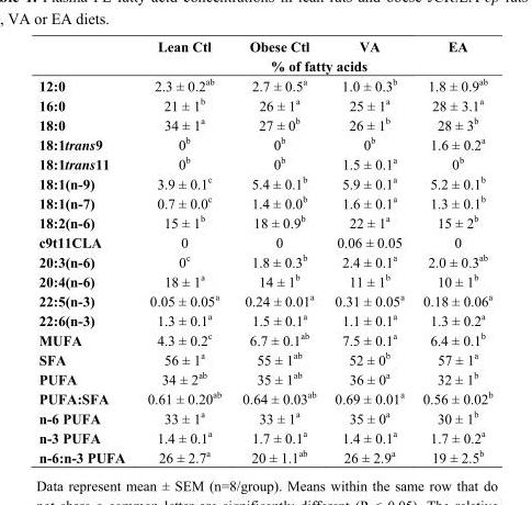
<table><thead><tr><td rowspan="2"></td><td>Lean Ctl</td><td>Obese Ctl</td><td>VA</td><td>EA</td></tr><tr><td colspan="4">% of fatty acids</td></tr></thead><tbody><tr><td>12:0</td><td>2.3 ± 0.2<sup>ab</sup></td><td>2.7 ± 0.5<sup>a</sup></td><td>1.0 ± 0.3<sup>b</sup></td><td>1.8 ± 0.9<sup>ab</sup></td></tr><tr><td>16:0</td><td>21 ± 1<sup>b</sup></td><td>26 ± 1<sup>a</sup></td><td>25 ± 1<sup>a</sup></td><td>28 ± 3.1<sup>a</sup></td></tr><tr><td>18:0</td><td>34 ± 1<sup>a</sup></td><td>27 ± 0<sup>b</sup></td><td>26 ± 1<sup>b</sup></td><td>28 ± 3<sup>b</sup></td></tr><tr><td>18:1trans9</td><td>0<sup>b</sup></td><td>0<sup>b</sup></td><td>0<sup>b</sup></td><td>1.6 ± 0.2<sup>a</sup></td></tr><tr><td>18:1trans11</td><td>0<sup>b</sup></td><td>0<sup>b</sup></td><td>1.5 ± 0.1<sup>a</sup></td><td>0<sup>b</sup></td></tr><tr><td>18:1(n-9)</td><td>3.9 ± 0.1<sup>c</sup></td><td>5.4 ± 0.1<sup>b</sup></td><td>5.9 ± 0.1<sup>a</sup></td><td>5.2 ± 0.1<sup>b</sup></td></tr><tr><td>18:1(n-7)</td><td>0.7 ± 0.0<sup>c</sup></td><td>1.4 ± 0.0<sup>b</sup></td><td>1.6 ± 0.1<sup>a</sup></td><td>1.3 ± 0.1<sup>b</sup></td></tr><tr><td>18:2(n-6)</td><td>15 ± 1<sup>b</sup></td><td>18 ± 0.9<sup>b</sup></td><td>22 ± 1<sup>a</sup></td><td>15 ± 2<sup>b</sup></td></tr><tr><td>c9t11CLA</td><td>0</td><td>0</td><td>0.06 ± 0.05</td><td>0</td></tr><tr><td>20:3(n-6)</td><td>0<sup>c</sup></td><td>1.8 ± 0.3<sup>b</sup></td><td>2.4 ± 0.1<sup>a</sup></td><td>2.0 ± 0.3<sup>ab</sup></td></tr><tr><td>20:4(n-6)</td><td>18 ± 1<sup>a</sup></td><td>14 ± 1<sup>b</sup></td><td>11 ± 1<sup>b</sup></td><td>10 ± 1<sup>b</sup></td></tr><tr><td>22:5(n-3)</td><td>0.05 ± 0.05<sup>a</sup></td><td>0.24 ± 0.01<sup>a</sup></td><td>0.31 ± 0.05<sup>a</sup></td><td>0.18 ± 0.06<sup>a</sup></td></tr><tr><td>22:6(n-3)</td><td>1.3 ± 0.1<sup>a</sup></td><td>1.5 ± 0.1<sup>a</sup></td><td>1.1 ± 0.1<sup>a</sup></td><td>1.3 ± 0.2<sup>a</sup></td></tr><tr><td>MUFA</td><td>4.3 ± 0.2<sup>c</sup></td><td>6.7 ± 0.1<sup>ab</sup></td><td>7.5 ± 0.1<sup>a</sup></td><td>6.4 ± 0.1<sup>b</sup></td></tr><tr><td>SFA</td><td>56 ± 1<sup>a</sup></td><td>55 ± 1<sup>ab</sup></td><td>52 ± 0<sup>b</sup></td><td>57 ± 1<sup>a</sup></td></tr><tr><td>PUFA</td><td>34 ± 2<sup>ab</sup></td><td>35 ± 1<sup>ab</sup></td><td>36 ± 0<sup>a</sup></td><td>32 ± 1<sup>b</sup></td></tr><tr><td>PUFA:SFA</td><td>0.61 ± 0.20<sup>ab</sup></td><td>0.64 ± 0.03<sup>ab</sup></td><td>0.69 ± 0.01<sup>a</sup></td><td>0.56 ± 0.02<sup>b</sup></td></tr><tr><td>n-6 PUFA</td><td>33 ± 1<sup>a</sup></td><td>33 ± 1<sup>a</sup></td><td>35 ± 0<sup>a</sup></td><td>30 ± 1<sup>b</sup></td></tr><tr><td>n-3 PUFA</td><td>1.4 ± 0.1<sup>a</sup></td><td>1.7 ± 0.1<sup>a</sup></td><td>1.4 ± 0.1<sup>a</sup></td><td>1.7 ± 0.2<sup>a</sup></td></tr><tr><td>n-6:n-3 PUFA</td><td>26 ± 2.7<sup>a</sup></td><td>20 ± 1.1<sup>ab</sup></td><td>26 ± 2.9<sup>a</sup></td><td>19 ± 2.5<sup>b</sup></td></tr></tbody></table>